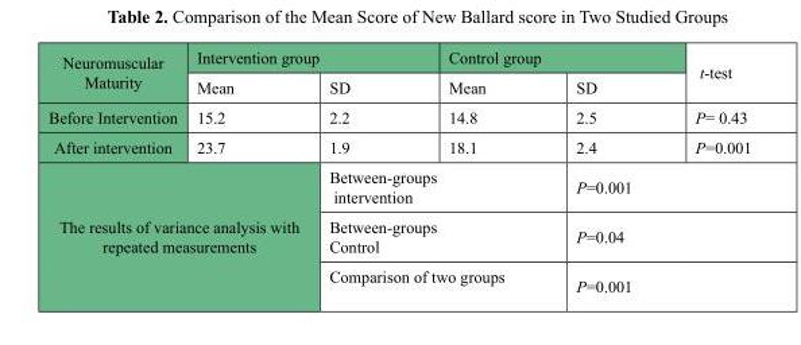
<table><thead><tr><td rowspan="2">Neuromuscular Maturity</td><td colspan="2">Intervention group</td><td colspan="2">Control group</td><td rowspan="2">t-test</td></tr><tr><td>Mean</td><td>SD</td><td>Mean</td><td>SD</td></tr></thead><tbody><tr><td>Before Intervention</td><td>15.2</td><td>2.2</td><td>14.8</td><td>2.5</td><td>P= 0.43</td></tr><tr><td>After intervention</td><td>23.7</td><td>1.9</td><td>18.1</td><td>2.4</td><td>P=0.001</td></tr><tr><td rowspan="3" colspan="2">The results of variance analysis with repeated measurements</td><td colspan="2">Between-groups intervention</td><td colspan="2">P=0.001</td></tr><tr><td colspan="2">Between-groups Control</td><td colspan="2">P=0.04</td></tr><tr><td colspan="2">Comparison of two groups</td><td colspan="2">P=0.001</td></tr></tbody></table>